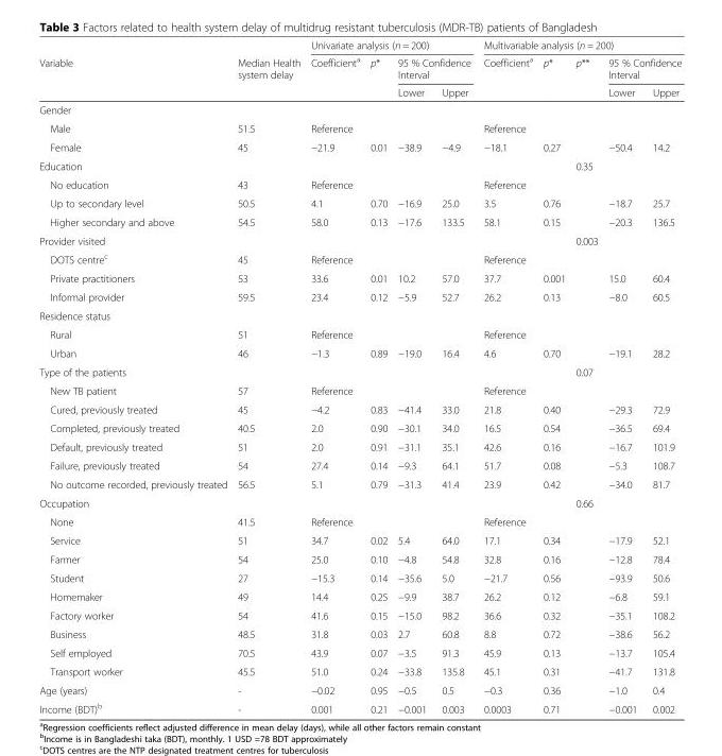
<table><thead><tr><td rowspan="3">Variable</td><td rowspan="3">Median Health system delay</td><td colspan="4">Univariate analysis (n = 200)</td><td colspan="5">Multivariable analysis (n = 200)</td></tr><tr><td rowspan="2">Coefficient<sup>a</sup></td><td rowspan="2">p*</td><td colspan="2">95 % Confidence Interval</td><td rowspan="2">Coefficient<sup>a</sup></td><td rowspan="2">p*</td><td rowspan="2">p**</td><td colspan="2">95 % Confidence Interval</td></tr><tr><td>Lower</td><td>Upper</td><td>Lower</td><td>Upper</td></tr></thead><tbody><tr><td colspan="11">Gender</td></tr><tr><td>Male</td><td>51.5</td><td>Reference</td><td></td><td></td><td></td><td>Reference</td><td></td><td></td><td></td><td></td></tr><tr><td>Female</td><td>45</td><td>−21.9</td><td>0.01</td><td>−38.9</td><td>−4.9</td><td>−18.1</td><td>0.27</td><td></td><td>−50.4</td><td>14.2</td></tr><tr><td>Education</td><td></td><td></td><td></td><td></td><td></td><td></td><td></td><td>0.35</td><td></td><td></td></tr><tr><td>No education</td><td>43</td><td>Reference</td><td></td><td></td><td></td><td>Reference</td><td></td><td></td><td></td><td></td></tr><tr><td>Up to secondary level</td><td>50.5</td><td>4.1</td><td>0.70</td><td>−16.9</td><td>25.0</td><td>3.5</td><td>0.76</td><td></td><td>−18.7</td><td>25.7</td></tr><tr><td>Higher secondary and above</td><td>54.5</td><td>58.0</td><td>0.13</td><td>−17.6</td><td>133.5</td><td>58.1</td><td>0.15</td><td></td><td>−20.3</td><td>136.5</td></tr><tr><td>Provider visited</td><td></td><td></td><td></td><td></td><td></td><td></td><td></td><td>0.003</td><td></td><td></td></tr><tr><td>DOTS centre<sup>c</sup></td><td>45</td><td>Reference</td><td></td><td></td><td></td><td>Reference</td><td></td><td></td><td></td><td></td></tr><tr><td>Private practitioners</td><td>53</td><td>33.6</td><td>0.01</td><td>10.2</td><td>57.0</td><td>37.7</td><td>0.001</td><td></td><td>15.0</td><td>60.4</td></tr><tr><td>Informal provider</td><td>59.5</td><td>23.4</td><td>0.12</td><td>−5.9</td><td>52.7</td><td>26.2</td><td>0.13</td><td></td><td>−8.0</td><td>60.5</td></tr><tr><td colspan="11">Residence status</td></tr><tr><td>Rural</td><td>51</td><td>Reference</td><td></td><td></td><td></td><td>Reference</td><td></td><td></td><td></td><td></td></tr><tr><td>Urban</td><td>46</td><td>−1.3</td><td>0.89</td><td>−19.0</td><td>16.4</td><td>4.6</td><td>0.70</td><td></td><td>−19.1</td><td>28.2</td></tr><tr><td>Type of the patients</td><td></td><td></td><td></td><td></td><td></td><td></td><td></td><td>0.07</td><td></td><td></td></tr><tr><td>New TB patient</td><td>57</td><td>Reference</td><td></td><td></td><td></td><td>Reference</td><td></td><td></td><td></td><td></td></tr><tr><td>Cured, previously treated</td><td>45</td><td>−4.2</td><td>0.83</td><td>−41.4</td><td>33.0</td><td>21.8</td><td>0.40</td><td></td><td>−29.3</td><td>72.9</td></tr><tr><td>Completed, previously treated</td><td>40.5</td><td>2.0</td><td>0.90</td><td>−30.1</td><td>34.0</td><td>16.5</td><td>0.54</td><td></td><td>−36.5</td><td>69.4</td></tr><tr><td>Default, previously treated</td><td>51</td><td>2.0</td><td>0.91</td><td>−31.1</td><td>35.1</td><td>42.6</td><td>0.16</td><td></td><td>−16.7</td><td>101.9</td></tr><tr><td>Failure, previously treated</td><td>54</td><td>27.4</td><td>0.14</td><td>−9.3</td><td>64.1</td><td>51.7</td><td>0.08</td><td></td><td>−5.3</td><td>108.7</td></tr><tr><td>No outcome recorded, previously treated</td><td>56.5</td><td>5.1</td><td>0.79</td><td>−31.3</td><td>41.4</td><td>23.9</td><td>0.42</td><td></td><td>−34.0</td><td>81.7</td></tr><tr><td>Occupation</td><td></td><td></td><td></td><td></td><td></td><td></td><td></td><td>0.66</td><td></td><td></td></tr><tr><td>None</td><td>41.5</td><td>Reference</td><td></td><td></td><td></td><td>Reference</td><td></td><td></td><td></td><td></td></tr><tr><td>Service</td><td>51</td><td>34.7</td><td>0.02</td><td>5.4</td><td>64.0</td><td>17.1</td><td>0.34</td><td></td><td>−17.9</td><td>52.1</td></tr><tr><td>Farmer</td><td>54</td><td>25.0</td><td>0.10</td><td>−4.8</td><td>54.8</td><td>32.8</td><td>0.16</td><td></td><td>−12.8</td><td>78.4</td></tr><tr><td>Student</td><td>27</td><td>−15.3</td><td>0.14</td><td>−35.6</td><td>5.0</td><td>−21.7</td><td>0.56</td><td></td><td>−93.9</td><td>50.6</td></tr><tr><td>Homemaker</td><td>49</td><td>14.4</td><td>0.25</td><td>−9.9</td><td>38.7</td><td>26.2</td><td>0.12</td><td></td><td>−6.8</td><td>59.1</td></tr><tr><td>Factory worker</td><td>54</td><td>41.6</td><td>0.15</td><td>−15.0</td><td>98.2</td><td>36.6</td><td>0.32</td><td></td><td>−35.1</td><td>108.2</td></tr><tr><td>Business</td><td>48.5</td><td>31.8</td><td>0.03</td><td>2.7</td><td>60.8</td><td>8.8</td><td>0.72</td><td></td><td>−38.6</td><td>56.2</td></tr><tr><td>Self employed</td><td>70.5</td><td>43.9</td><td>0.07</td><td>−3.5</td><td>91.3</td><td>45.9</td><td>0.13</td><td></td><td>−13.7</td><td>105.4</td></tr><tr><td>Transport worker</td><td>45.5</td><td>51.0</td><td>0.24</td><td>−33.8</td><td>135.8</td><td>45.1</td><td>0.31</td><td></td><td>−41.7</td><td>131.8</td></tr><tr><td>Age (years)</td><td>-</td><td>−0.02</td><td>0.95</td><td>−0.5</td><td>0.5</td><td>−0.3</td><td>0.36</td><td></td><td>−1.0</td><td>0.4</td></tr><tr><td>Income (BDT)<sup>b</sup></td><td>-</td><td>0.001</td><td>0.21</td><td>−0.001</td><td>0.003</td><td>0.0003</td><td>0.71</td><td></td><td>−0.001</td><td>0.002</td></tr></tbody></table>